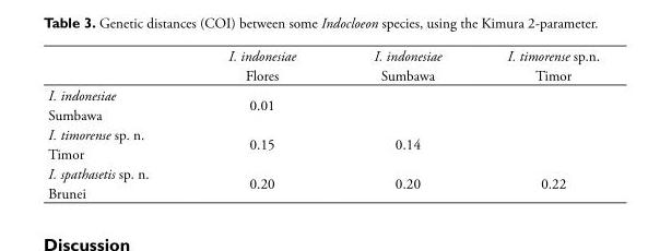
<table><thead><tr><td rowspan="2"></td><td rowspan="2">I. indonesiae Flores</td><td rowspan="2">I. indonesiae Sumbawa</td><td rowspan="2">I. timorense sp.n. Timor</td></tr><tr></tr></thead><tbody><tr><td>I. indonesiae</td><td rowspan="2">0.01</td><td rowspan="2"></td><td rowspan="2"></td></tr><tr><td>Sumbawa</td></tr><tr><td>I. timorense sp. n.</td><td rowspan="2">0.15</td><td rowspan="2">0.14</td><td rowspan="2"></td></tr><tr><td>Timor</td></tr><tr><td>I. spathasetis sp. n.</td><td rowspan="2">0.20</td><td rowspan="2">0.20</td><td rowspan="2">0.22</td></tr><tr><td>Brunei</td></tr></tbody></table>